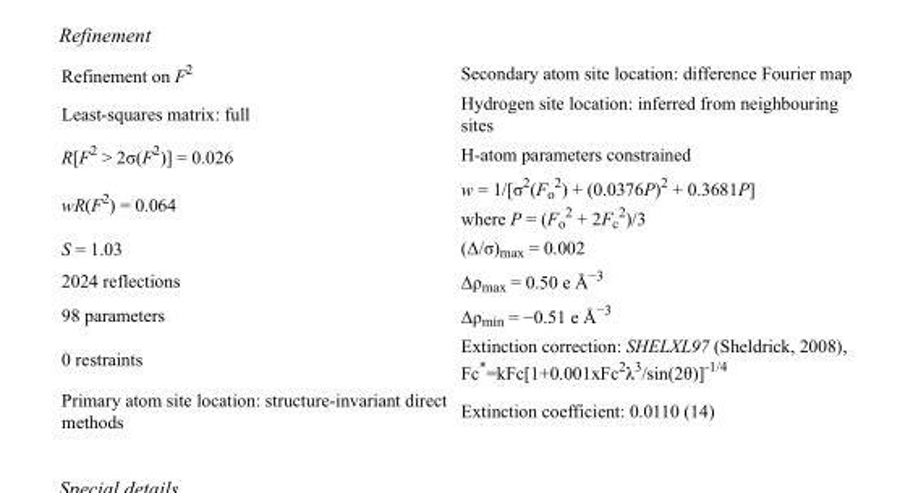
<table><tbody><tr><td>Refinement on F<sup>2</sup></td><td>Secondary atom site location: difference Fourier map</td></tr><tr><td>Least-squares matrix: full</td><td>Hydrogen site location: inferred from neighbouring sites</td></tr><tr><td>R[F<sup>2</sup> &gt; 2σ(F<sup>2</sup>)] = 0.026</td><td>H-atom parameters constrained</td></tr><tr><td>wR(F<sup>2</sup>) = 0.064</td><td>w = 1/[σ<sup>2</sup>(F<sub>o</sub> <sup>2</sup>) + (0.0376P)<sup>2</sup> + 0.3681P] where P = (F<sub>o</sub> <sup>2</sup> + 2F<sub>c</sub> <sup>2</sup>)/3</td></tr><tr><td>S = 1.03</td><td>(Δ/σ)<sub>max</sub> = 0.002</td></tr><tr><td>2024 reflections</td><td>Δρ<sub>max</sub> = 0.50 e Å<sup>−3</sup></td></tr><tr><td>98 parameters</td><td>Δρ<sub>min</sub> = −0.51 e Å<sup>−3</sup></td></tr><tr><td>0 restraints</td><td>Extinction correction: SHELXL97 (Sheldrick, 2008), Fc*=kFc[1+0.001xFc<sup>2</sup>λ<sup>3</sup>/sin(2θ)]<sup>-1/4</sup></td></tr><tr><td>Primary atom site location: structure-invariant direct methods</td><td>Extinction coefficient: 0.0110 (14)</td></tr></tbody></table>